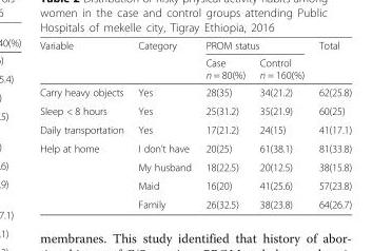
<table><thead><tr><td rowspan="2">Variable</td><td rowspan="2">Category</td><td colspan="2">PROM status</td><td rowspan="2">Total</td></tr><tr><td>Case n = 80(%)</td><td>Control n = 160(%)</td></tr></thead><tbody><tr><td>Carry heavy objects</td><td>Yes</td><td>28(35)</td><td>34(21.2)</td><td>62(25.8)</td></tr><tr><td>Sleep &lt; 8 hours</td><td>Yes</td><td>25(31.2)</td><td>35(21.9)</td><td>60(25)</td></tr><tr><td>Daily transportation</td><td>Yes</td><td>17(21.2)</td><td>24(15)</td><td>41(17.1)</td></tr><tr><td rowspan="4">Help at home</td><td>I don’t have</td><td>20(25)</td><td>61(38.1)</td><td>81(33.8)</td></tr><tr><td>My husband</td><td>18(22.5)</td><td>20(12.5)</td><td>38(15.8)</td></tr><tr><td>Maid</td><td>16(20)</td><td>41(25.6)</td><td>57(23.8)</td></tr><tr><td>Family</td><td>26(32.5)</td><td>38(23.8)</td><td>64(26.7)</td></tr></tbody></table>